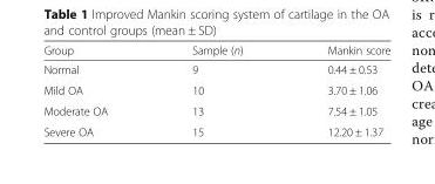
<table><thead><tr><td>Group</td><td>Sample (n)</td><td>Mankin score</td></tr></thead><tbody><tr><td>Normal</td><td>9</td><td>0.44 ± 0.53</td></tr><tr><td>Mild OA</td><td>10</td><td>3.70 ± 1.06</td></tr><tr><td>Moderate OA</td><td>13</td><td>7.54 ± 1.05</td></tr><tr><td>Severe OA</td><td>15</td><td>12.20 ± 1.37</td></tr></tbody></table>